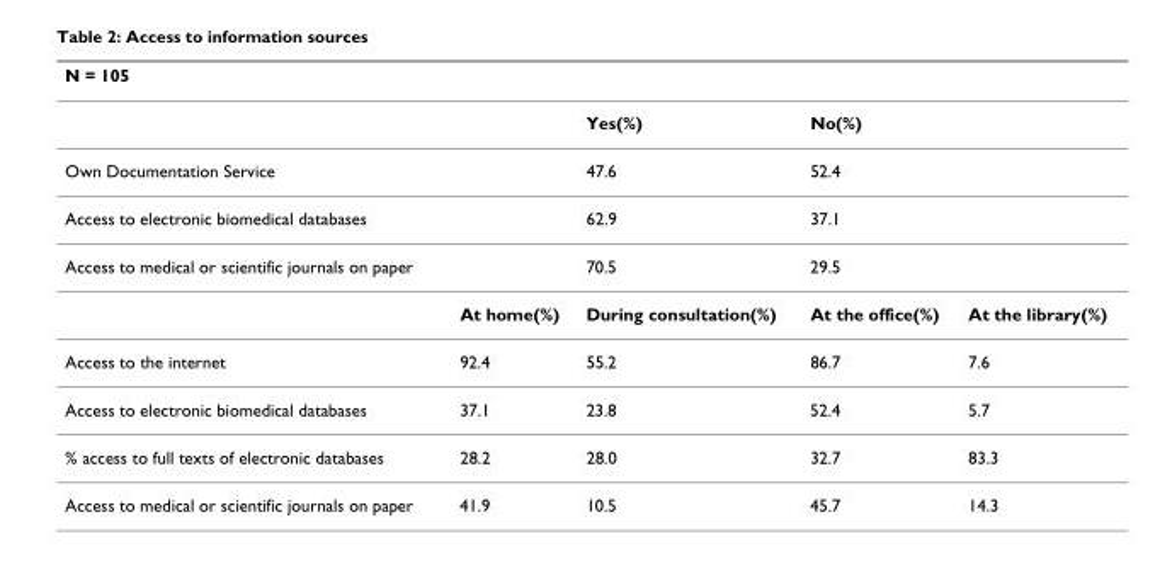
<table><thead><tr><td>N = 105</td><td></td><td></td><td></td><td></td></tr></thead><tbody><tr><td></td><td></td><td>Yes(%)</td><td>No(%)</td><td></td></tr><tr><td>Own Documentation Service</td><td></td><td>47.6</td><td>52.4</td><td></td></tr><tr><td>Access to electronic biomedical databases</td><td></td><td>62.9</td><td>37.1</td><td></td></tr><tr><td rowspan="2">Access to medical or scientific journals on paper</td><td></td><td>70.5</td><td>29.5</td><td></td></tr><tr><td>At home(%)</td><td>During consultation(%)</td><td>At the office(%)</td><td>At the library(%)</td></tr><tr><td>Access to the internet</td><td>92.4</td><td>55.2</td><td>86.7</td><td>7.6</td></tr><tr><td>Access to electronic biomedical databases</td><td>37.1</td><td>23.8</td><td>52.4</td><td>5.7</td></tr><tr><td>% access to full texts of electronic databases</td><td>28.2</td><td>28.0</td><td>32.7</td><td>83.3</td></tr><tr><td>Access to medical or scientific journals on paper</td><td>41.9</td><td>10.5</td><td>45.7</td><td>14.3</td></tr></tbody></table>